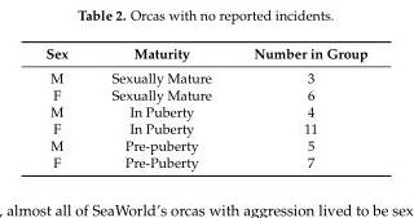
<table><thead><tr><td>Sex</td><td>Maturity</td><td>Number in Group</td></tr></thead><tbody><tr><td>M</td><td>Sexually Mature</td><td>3</td></tr><tr><td>F</td><td>Sexually Mature</td><td>6</td></tr><tr><td>M</td><td>In Puberty</td><td>4</td></tr><tr><td>F</td><td>In Puberty</td><td>11</td></tr><tr><td>M</td><td>Pre-puberty</td><td>5</td></tr><tr><td>F</td><td>Pre-Puberty</td><td>7</td></tr></tbody></table>